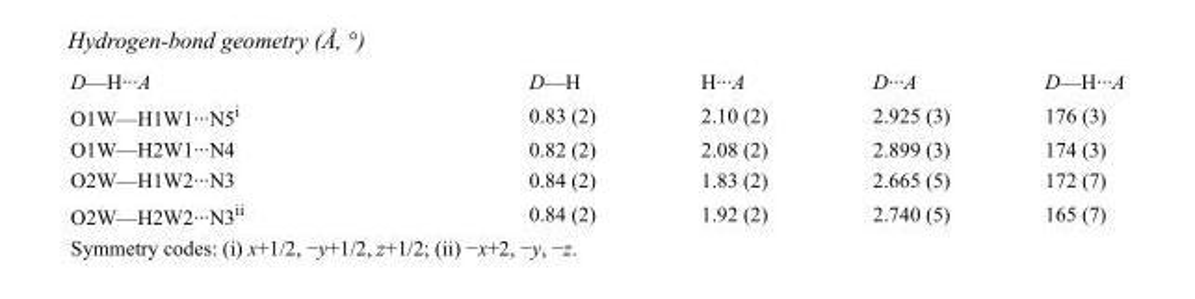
<table><tbody><tr><td>D—H···A</td><td>D—H</td><td>H···A</td><td>D···A</td><td>D—H···A</td></tr><tr><td>O1W—H1W1···N5<sup>i</sup></td><td>0.83 (2)</td><td>2.10 (2)</td><td>2.925 (3)</td><td>176 (3)</td></tr><tr><td>O1W—H2W1···N4</td><td>0.82 (2)</td><td>2.08 (2)</td><td>2.899 (3)</td><td>174 (3)</td></tr><tr><td>O2W—H1W2···N3</td><td>0.84 (2)</td><td>1.83 (2)</td><td>2.665 (5)</td><td>172 (7)</td></tr><tr><td>O2W—H2W2···N3<sup>ii</sup></td><td>0.84 (2)</td><td>1.92 (2)</td><td>2.740 (5)</td><td>165 (7)</td></tr></tbody></table>